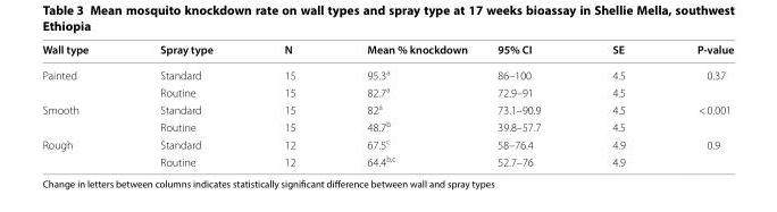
<table><thead><tr><td>Wall type</td><td>Spray type</td><td>N</td><td>Mean % knockdown</td><td>95% CI</td><td>SE</td><td>P-value</td></tr></thead><tbody><tr><td rowspan="2">Painted</td><td>Standard</td><td>15</td><td>95.3<sup>a</sup></td><td>86–100</td><td>4.5</td><td rowspan="2">0.37</td></tr><tr><td>Routine</td><td>15</td><td>82.7<sup>a</sup></td><td>72.9–91</td><td>4.5</td></tr><tr><td rowspan="2">Smooth</td><td>Standard</td><td>15</td><td>82<sup>a</sup></td><td>73.1–90.9</td><td>4.5</td><td rowspan="2">&lt; 0.001</td></tr><tr><td>Routine</td><td>15</td><td>48.7<sup>b</sup></td><td>39.8–57.7</td><td>4.5</td></tr><tr><td rowspan="2">Rough</td><td>Standard</td><td>12</td><td>67.5<sup>c</sup></td><td>58–76.4</td><td>4.9</td><td rowspan="2">0.9</td></tr><tr><td>Routine</td><td>12</td><td>64.4<sup>b,c</sup></td><td>52.7–76</td><td>4.9</td></tr></tbody></table>